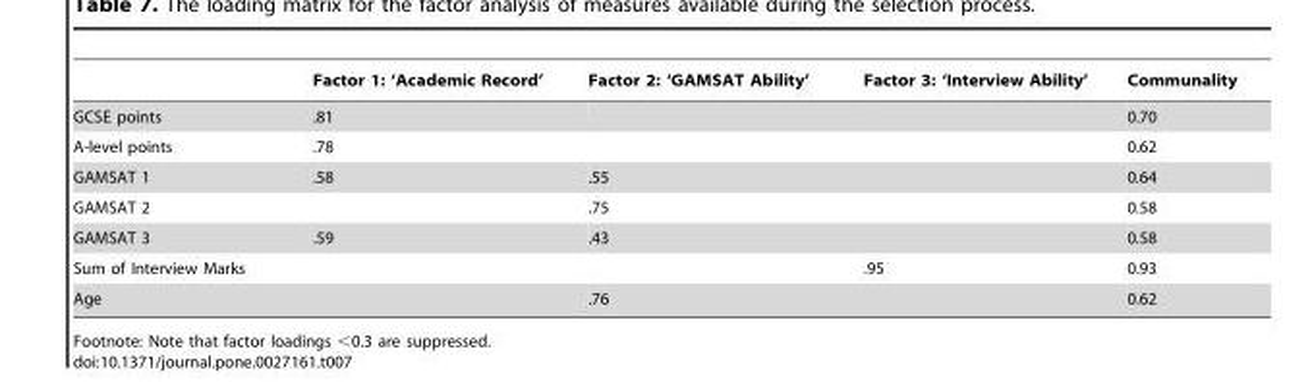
<table><thead><tr><td></td><td>Factor 1: ‘Academic Record’</td><td>Factor 2: ‘GAMSAT Ability’</td><td>Factor 3: ‘Interview Ability’</td><td>Communality</td></tr></thead><tbody><tr><td>GCSE points</td><td>.81</td><td></td><td></td><td>0.70</td></tr><tr><td>A-level points</td><td>.78</td><td></td><td></td><td>0.62</td></tr><tr><td>GAMSAT 1</td><td>.58</td><td>.55</td><td></td><td>0.64</td></tr><tr><td>GAMSAT 2</td><td></td><td>.75</td><td></td><td>0.58</td></tr><tr><td>GAMSAT 3</td><td>.59</td><td>.43</td><td></td><td>0.58</td></tr><tr><td>Sum of Interview Marks</td><td></td><td></td><td>.95</td><td>0.93</td></tr><tr><td>Age</td><td></td><td>.76</td><td></td><td>0.62</td></tr></tbody></table>